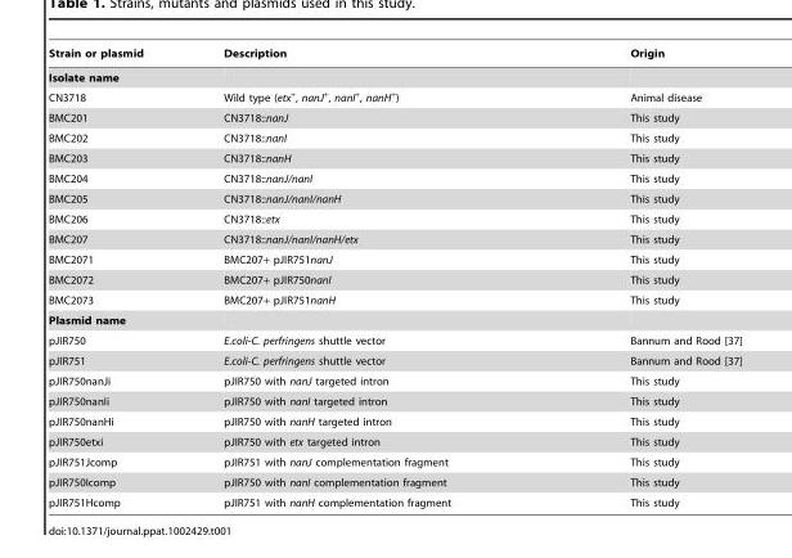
<table><thead><tr><td>Strain or plasmid</td><td>Description</td><td>Origin</td></tr></thead><tbody><tr><td colspan="3">Isolate name</td></tr><tr><td>CN3718</td><td>Wild type (etx<sup>+</sup>, nanJ<sup>+</sup>, nanI<sup>+</sup>, nanH<sup>+</sup>)</td><td>Animal disease</td></tr><tr><td>BMC201</td><td>CN3718::nanJ</td><td>This study</td></tr><tr><td>BMC202</td><td>CN3718::nanI</td><td>This study</td></tr><tr><td>BMC203</td><td>CN3718::nanH</td><td>This study</td></tr><tr><td>BMC204</td><td>CN3718::nanJ/nanI</td><td>This study</td></tr><tr><td>BMC205</td><td>CN3718::nanJ/nanI/nanH</td><td>This study</td></tr><tr><td>BMC206</td><td>CN3718::etx</td><td>This study</td></tr><tr><td>BMC207</td><td>CN3718::nanJ/nanI/nanH/etx</td><td>This study</td></tr><tr><td>BMC2071</td><td>BMC207+ pJIR751nanJ</td><td>This study</td></tr><tr><td>BMC2072</td><td>BMC207+ pJIR750nanI</td><td>This study</td></tr><tr><td>BMC2073</td><td>BMC207+ pJIR751nanH</td><td>This study</td></tr><tr><td colspan="3">Plasmid name</td></tr><tr><td>pJIR750</td><td>E.coli-C. perfringens shuttle vector</td><td>Bannum and Rood [37]</td></tr><tr><td>pJIR751</td><td>E.coli-C. perfringens shuttle vector</td><td>Bannum and Rood [37]</td></tr><tr><td>pJIR750nanJi</td><td>pJIR750 with nanJ targeted intron</td><td>This study</td></tr><tr><td>pJIR750nanIi</td><td>pJIR750 with nanI targeted intron</td><td>This study</td></tr><tr><td>pJIR750nanHi</td><td>pJIR750 with nanH targeted intron</td><td>This study</td></tr><tr><td>pJIR750etxi</td><td>pJIR750 with etx targeted intron</td><td>This study</td></tr><tr><td>pJIR751Jcomp</td><td>pJIR751 with nanJ complementation fragment</td><td>This study</td></tr><tr><td>pJIR750Icomp</td><td>pJIR750 with nanI complementation fragment</td><td>This study</td></tr><tr><td>pJIR751Hcomp</td><td>pJIR751 with nanH complementation fragment</td><td>This study</td></tr></tbody></table>